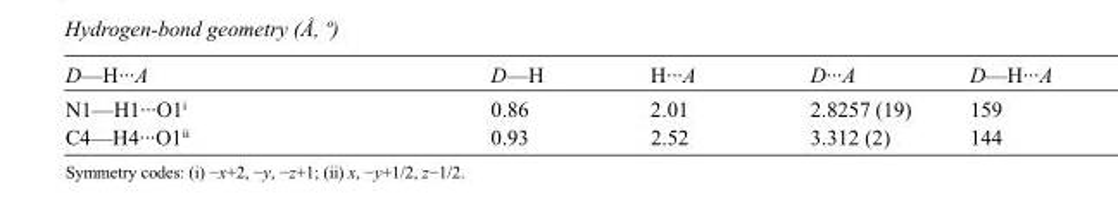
<table><tbody><tr><td>D—H···A</td><td>D—H</td><td>H···A</td><td>D···A</td><td>D—H···A</td></tr><tr><td>N1—H1···O1<sup>i</sup></td><td>0.86</td><td>2.01</td><td>2.8257 (19)</td><td>159</td></tr><tr><td>C4—H4···O1<sup>ii</sup></td><td>0.93</td><td>2.52</td><td>3.312 (2)</td><td>144</td></tr></tbody></table>